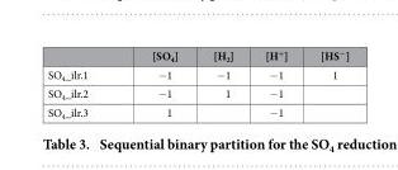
<table><thead><tr><td></td><td>[SO<sub>4</sub>]</td><td>[H<sub>2</sub>]</td><td>[H<sup>+</sup>]</td><td>[HS<sup>−</sup>]</td></tr></thead><tbody><tr><td>SO4_ilr.1</td><td>− 1</td><td>− 1</td><td>− 1</td><td>1</td></tr><tr><td>SO4_ilr.2</td><td>− 1</td><td>1</td><td>− 1</td><td></td></tr><tr><td>SO4_ilr.3</td><td>1</td><td></td><td>− 1</td><td></td></tr></tbody></table>